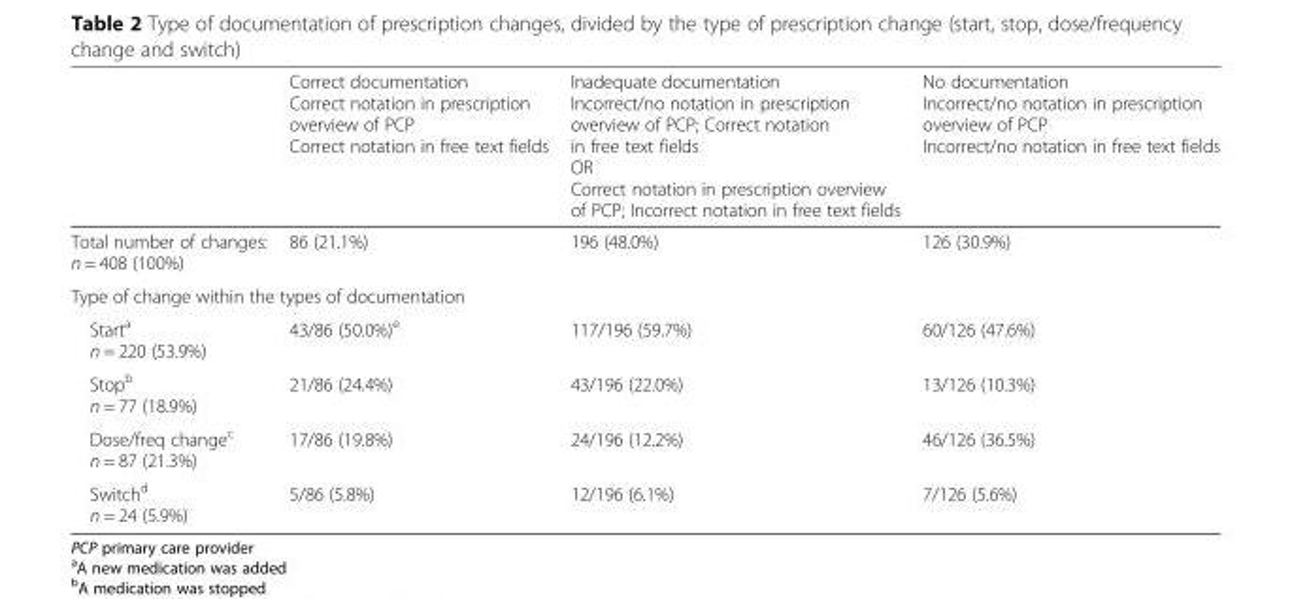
<table><thead><tr><td></td><td>Correct documentation Correct notation in prescription overview of PCP Correct notation in free text fields</td><td>Inadequate documentation Incorrect/no notation in prescription overview of PCP; Correct notation in free text fields OR Correct notation in prescription overview of PCP; Incorrect notation in free text fields</td><td>No documentation Incorrect/no notation in prescription overview of PCP Incorrect/no notation in free text fields</td></tr></thead><tbody><tr><td>Total number of changes: n = 408 (100%)</td><td>86 (21.1%)</td><td>196 (48.0%)</td><td>126 (30.9%)</td></tr><tr><td colspan="4">Type of change within the types of documentation</td></tr><tr><td>Start<sup>a</sup> n = 220 (53.9%)</td><td>43/86 (50.0%)<sup>e</sup></td><td>117/196 (59.7%)</td><td>60/126 (47.6%)</td></tr><tr><td>Stop<sup>b</sup> n = 77 (18.9%)</td><td>21/86 (24.4%)</td><td>43/196 (22.0%)</td><td>13/126 (10.3%)</td></tr><tr><td>Dose/freq change<sup>c</sup> n = 87 (21.3%)</td><td>17/86 (19.8%)</td><td>24/196 (12.2%)</td><td>46/126 (36.5%)</td></tr><tr><td>Switch<sup>d</sup> n = 24 (5.9%)</td><td>5/86 (5.8%)</td><td>12/196 (6.1%)</td><td>7/126 (5.6%)</td></tr></tbody></table>